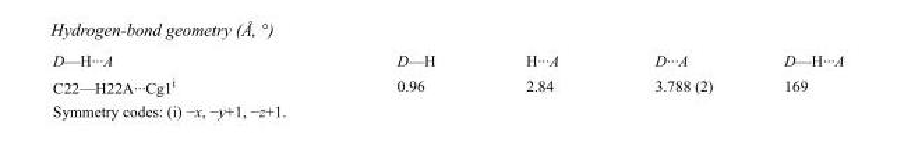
<table><tbody><tr><td>D—H···A</td><td>D—H</td><td>H···A</td><td>D···A</td><td>D—H···A</td></tr><tr><td>C22—H22A···Cg1<sup>i</sup></td><td>0.96</td><td>2.84</td><td>3.788 (2)</td><td>169</td></tr></tbody></table>